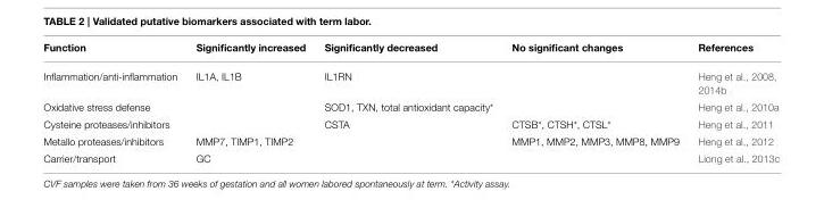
<table><thead><tr><td>Function</td><td>Significantly increased</td><td>Significantly decreased</td><td>No significant changes</td><td>References</td></tr></thead><tbody><tr><td>Inflammation/anti-inflammation</td><td>IL1A, IL1B</td><td>IL1RN</td><td></td><td>Heng et al., 2008, 2014b</td></tr><tr><td>Oxidative stress defense</td><td></td><td>SOD1, TXN, total antioxidant capacity*</td><td></td><td>Heng et al., 2010a</td></tr><tr><td>Cysteine proteases/inhibitors</td><td></td><td>CSTA</td><td>CTSB*, CTSH*, CTSL*</td><td>Heng et al., 2011</td></tr><tr><td>Metallo proteases/inhibitors</td><td>MMP7, TIMP1, TIMP2</td><td></td><td>MMP1, MMP2, MMP3, MMP8, MMP9</td><td>Heng et al., 2012</td></tr><tr><td>Carrier/transport</td><td>GC</td><td></td><td></td><td>Liong et al., 2013c</td></tr></tbody></table>